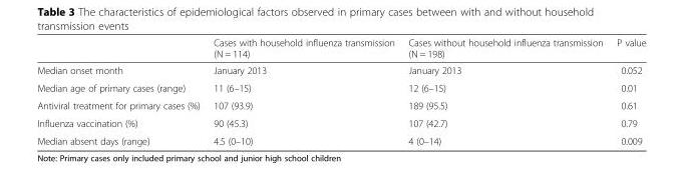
<table><thead><tr><td></td><td>Cases with household influenza transmission (N = 114)</td><td>Cases without household influenza transmission (N = 198)</td><td>P value</td></tr></thead><tbody><tr><td>Median onset month</td><td>January 2013</td><td>January 2013</td><td>0.052</td></tr><tr><td>Median age of primary cases (range)</td><td>11 (6–15)</td><td>12 (6–15)</td><td>0.01</td></tr><tr><td>Antiviral treatment for primary cases (%)</td><td>107 (93.9)</td><td>189 (95.5)</td><td>0.61</td></tr><tr><td>Influenza vaccination (%)</td><td>90 (45.3)</td><td>107 (42.7)</td><td>0.79</td></tr><tr><td>Median absent days (range)</td><td>4.5 (0–10)</td><td>4 (0–14)</td><td>0.009</td></tr></tbody></table>